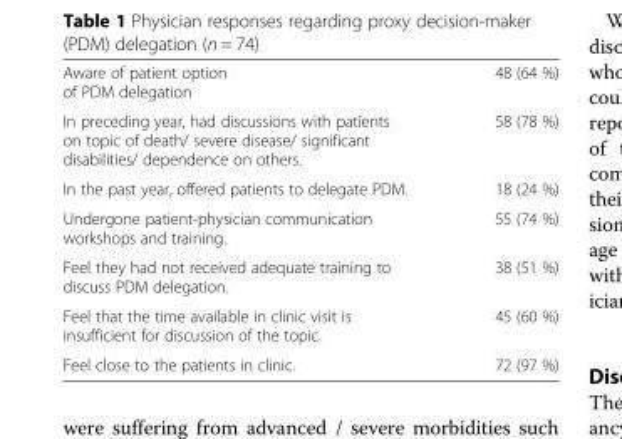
<table><tbody><tr><td>Aware of patient option of PDM delegation</td><td>48 (64 %)</td></tr><tr><td>In preceding year, had discussions with patients on topic of death/ severe disease/ significant disabilities/ dependence on others.</td><td>58 (78 %)</td></tr><tr><td>In the past year, offered patients to delegate PDM.</td><td>18 (24 %)</td></tr><tr><td>Undergone patient-physician communication workshops and training.</td><td>55 (74 %)</td></tr><tr><td>Feel they had not received adequate training to discuss PDM delegation.</td><td>38 (51 %)</td></tr><tr><td>Feel that the time available in clinic visit is insufficient for discussion of the topic.</td><td>45 (60 %)</td></tr><tr><td>Feel close to the patients in clinic.</td><td>72 (97 %)</td></tr></tbody></table>